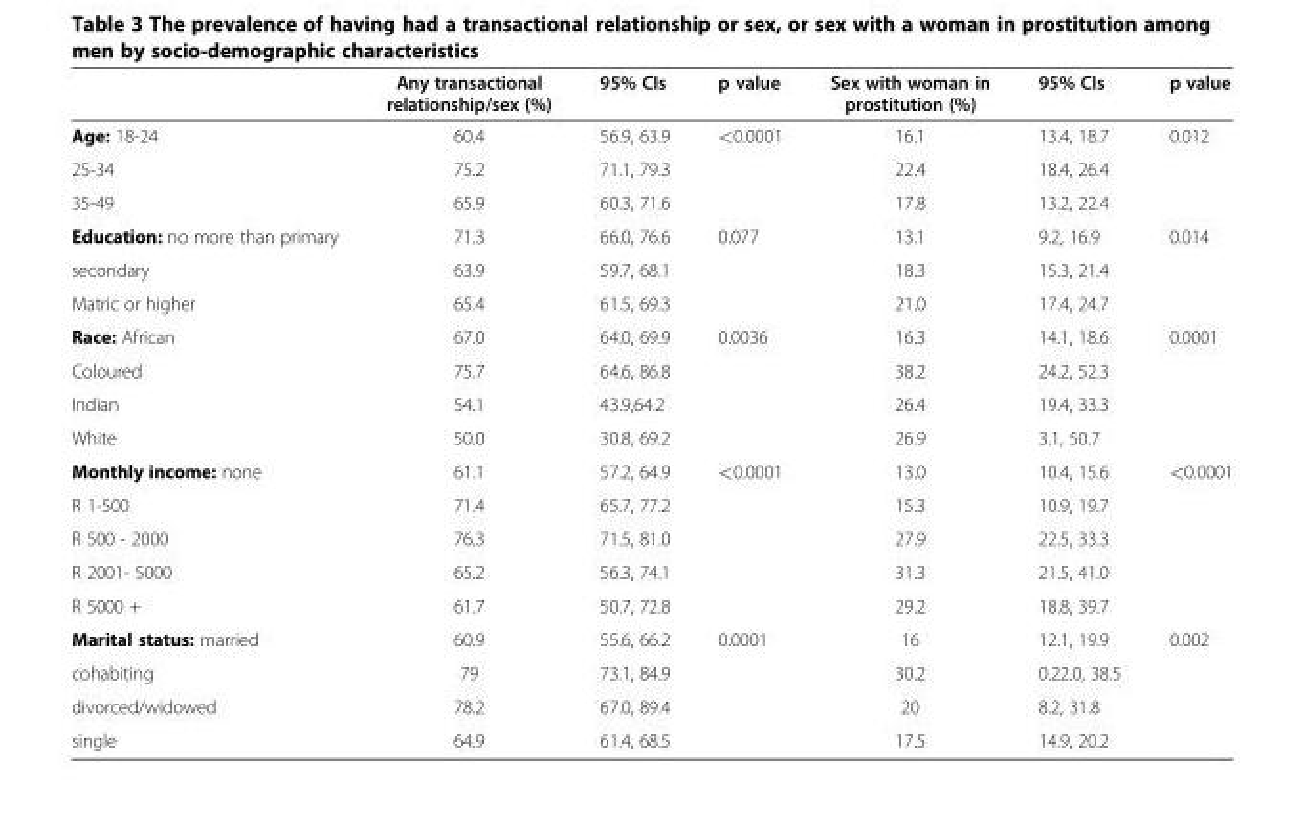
<table><thead><tr><td></td><td>Any transactional relationship/sex (%)</td><td>95% CIs</td><td>p value</td><td>Sex with woman in prostitution (%)</td><td>95% CIs</td><td>p value</td></tr></thead><tbody><tr><td>Age: 18-24</td><td>60.4</td><td>56.9, 63.9</td><td>&lt;0.0001</td><td>16.1</td><td>13.4, 18.7</td><td>0.012</td></tr><tr><td>25-34</td><td>75.2</td><td>71.1, 79.3</td><td></td><td>22.4</td><td>18.4, 26.4</td><td></td></tr><tr><td>35-49</td><td>65.9</td><td>60.3, 71.6</td><td></td><td>17.8</td><td>13.2, 22.4</td><td></td></tr><tr><td>Education: no more than primary</td><td>71.3</td><td>66.0, 76.6</td><td>0.077</td><td>13.1</td><td>9.2, 16.9</td><td>0.014</td></tr><tr><td>secondary</td><td>63.9</td><td>59.7, 68.1</td><td></td><td>18.3</td><td>15.3, 21.4</td><td></td></tr><tr><td>Matric or higher</td><td>65.4</td><td>61.5, 69.3</td><td></td><td>21.0</td><td>17.4, 24.7</td><td></td></tr><tr><td>Race: African</td><td>67.0</td><td>64.0, 69.9</td><td>0.0036</td><td>16.3</td><td>14.1, 18.6</td><td>0.0001</td></tr><tr><td>Coloured</td><td>75.7</td><td>64.6, 86.8</td><td></td><td>38.2</td><td>24.2, 52.3</td><td></td></tr><tr><td>Indian</td><td>54.1</td><td>43.9,64.2</td><td></td><td>26.4</td><td>19.4, 33.3</td><td></td></tr><tr><td>White</td><td>50.0</td><td>30.8, 69.2</td><td></td><td>26.9</td><td>3.1, 50.7</td><td></td></tr><tr><td>Monthly income: none</td><td>61.1</td><td>57.2, 64.9</td><td>&lt;0.0001</td><td>13.0</td><td>10.4, 15.6</td><td>&lt;0.0001</td></tr><tr><td>R 1-500</td><td>71.4</td><td>65.7, 77.2</td><td></td><td>15.3</td><td>10.9, 19.7</td><td></td></tr><tr><td>R 500 - 2000</td><td>76.3</td><td>71.5, 81.0</td><td></td><td>27.9</td><td>22.5, 33.3</td><td></td></tr><tr><td>R 2001- 5000</td><td>65.2</td><td>56.3, 74.1</td><td></td><td>31.3</td><td>21.5, 41.0</td><td></td></tr><tr><td>R 5000 +</td><td>61.7</td><td>50.7, 72.8</td><td></td><td>29.2</td><td>18.8, 39.7</td><td></td></tr><tr><td>Marital status: married</td><td>60.9</td><td>55.6, 66.2</td><td>0.0001</td><td>16</td><td>12.1, 19.9</td><td>0.002</td></tr><tr><td>cohabiting</td><td>79</td><td>73.1, 84.9</td><td></td><td>30.2</td><td>0.22.0, 38.5</td><td></td></tr><tr><td>divorced/widowed</td><td>78.2</td><td>67.0, 89.4</td><td></td><td>20</td><td>8.2, 31.8</td><td></td></tr><tr><td>single</td><td>64.9</td><td>61.4, 68.5</td><td></td><td>17.5</td><td>14.9, 20.2</td><td></td></tr></tbody></table>